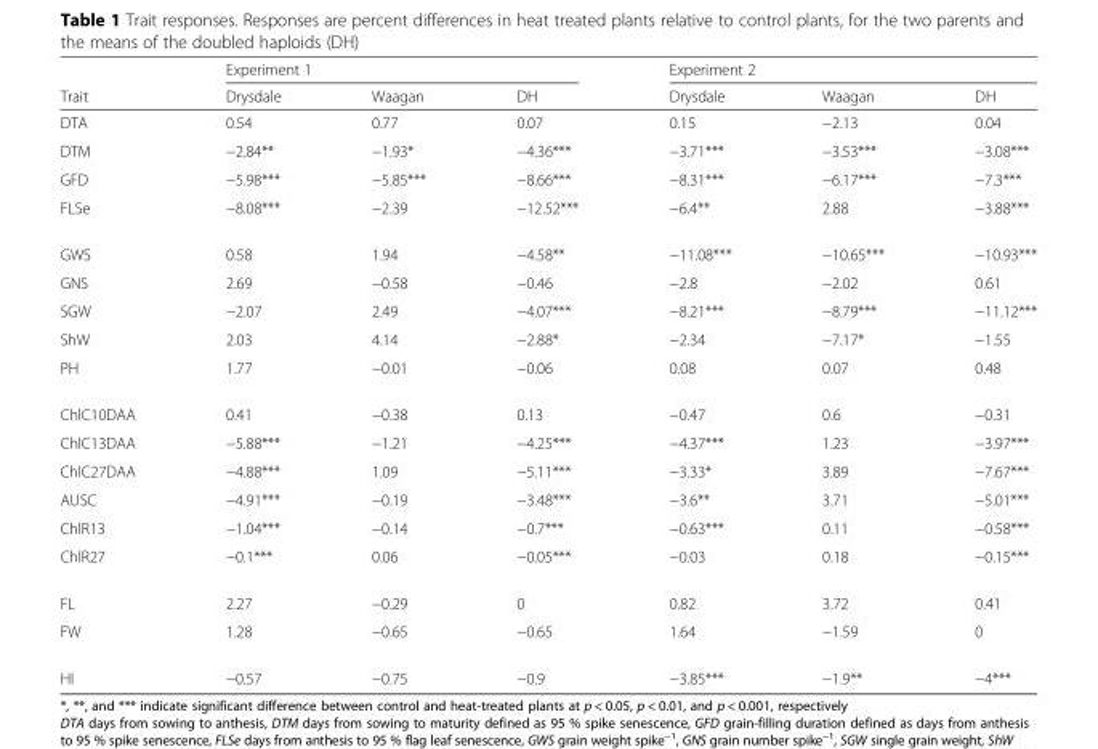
<table><thead><tr><td rowspan="2">Trait</td><td colspan="3">Experiment 1</td><td colspan="3">Experiment 2</td></tr><tr><td>Drysdale</td><td>Waagan</td><td>DH</td><td>Drysdale</td><td>Waagan</td><td>DH</td></tr></thead><tbody><tr><td>DTA</td><td>0.54</td><td>0.77</td><td>0.07</td><td>0.15</td><td>−2.13</td><td>0.04</td></tr><tr><td>DTM</td><td>−2.84**</td><td>−1.93*</td><td>−4.36***</td><td>−3.71***</td><td>−3.53***</td><td>−3.08***</td></tr><tr><td>GFD</td><td>−5.98***</td><td>−5.85***</td><td>−8.66***</td><td>−8.31***</td><td>−6.17***</td><td>−7.3***</td></tr><tr><td>FLSe</td><td>−8.08***</td><td>−2.39</td><td>−12.52***</td><td>−6.4**</td><td>2.88</td><td>−3.88***</td></tr><tr><td>GWS</td><td>0.58</td><td>1.94</td><td>−4.58**</td><td>−11.08***</td><td>−10.65***</td><td>−10.93***</td></tr><tr><td>GNS</td><td>2.69</td><td>−0.58</td><td>−0.46</td><td>−2.8</td><td>−2.02</td><td>0.61</td></tr><tr><td>SGW</td><td>−2.07</td><td>2.49</td><td>−4.07***</td><td>−8.21***</td><td>−8.79***</td><td>−11.12***</td></tr><tr><td>ShW</td><td>2.03</td><td>4.14</td><td>−2.88*</td><td>−2.34</td><td>−7.17*</td><td>−1.55</td></tr><tr><td>PH</td><td>1.77</td><td>−0.01</td><td>−0.06</td><td>0.08</td><td>0.07</td><td>0.48</td></tr><tr><td>ChlC10DAA</td><td>0.41</td><td>−0.38</td><td>0.13</td><td>−0.47</td><td>0.6</td><td>−0.31</td></tr><tr><td>ChlC13DAA</td><td>−5.88***</td><td>−1.21</td><td>−4.25***</td><td>−4.37***</td><td>1.23</td><td>−3.97***</td></tr><tr><td>ChlC27DAA</td><td>−4.88***</td><td>1.09</td><td>−5.11***</td><td>−3.33*</td><td>3.89</td><td>−7.67***</td></tr><tr><td>AUSC</td><td>−4.91***</td><td>−0.19</td><td>−3.48***</td><td>−3.6**</td><td>3.71</td><td>−5.01***</td></tr><tr><td>ChlR13</td><td>−1.04***</td><td>−0.14</td><td>−0.7***</td><td>−0.63***</td><td>0.11</td><td>−0.58***</td></tr><tr><td>ChlR27</td><td>−0.1***</td><td>0.06</td><td>−0.05***</td><td>−0.03</td><td>0.18</td><td>−0.15***</td></tr><tr><td>FL</td><td>2.27</td><td>−0.29</td><td>0</td><td>0.82</td><td>3.72</td><td>0.41</td></tr><tr><td>FW</td><td>1.28</td><td>−0.65</td><td>−0.65</td><td>1.64</td><td>−1.59</td><td>0</td></tr><tr><td>HI</td><td>−0.57</td><td>−0.75</td><td>−0.9</td><td>−3.85***</td><td>−1.9**</td><td>−4***</td></tr></tbody></table>